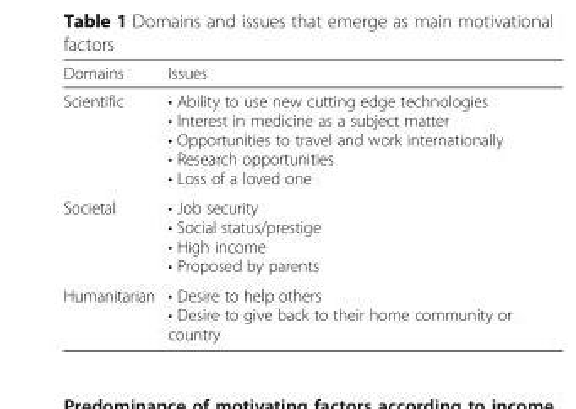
<table><thead><tr><td>Domains</td><td>Issues</td></tr></thead><tbody><tr><td>Scientific</td><td>• Ability to use new cutting edge technologies • Interest in medicine as a subject matter • Opportunities to travel and work internationally • Research opportunities • Loss of a loved one</td></tr><tr><td>Societal</td><td>• Job security • Social status/prestige • High income • Proposed by parents</td></tr><tr><td>Humanitarian</td><td>• Desire to help others • Desire to give back to their home community or country</td></tr></tbody></table>